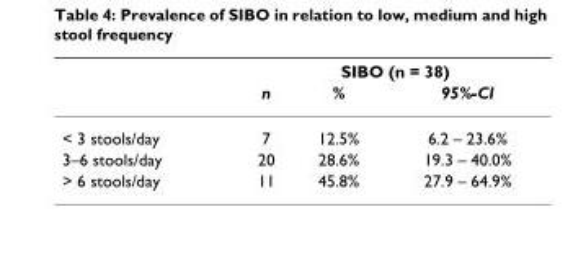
<table><thead><tr><td rowspan="2"></td><td colspan="3">SIBO (n = 38)</td></tr><tr><td>n</td><td>%</td><td>95%-CI</td></tr></thead><tbody><tr><td>&lt; 3 stools/day</td><td>7</td><td>12.5%</td><td>6.2 – 23.6%</td></tr><tr><td>3–6 stools/day</td><td>20</td><td>28.6%</td><td>19.3 – 40.0%</td></tr><tr><td>&gt; 6 stools/day</td><td>11</td><td>45.8%</td><td>27.9 – 64.9%</td></tr></tbody></table>